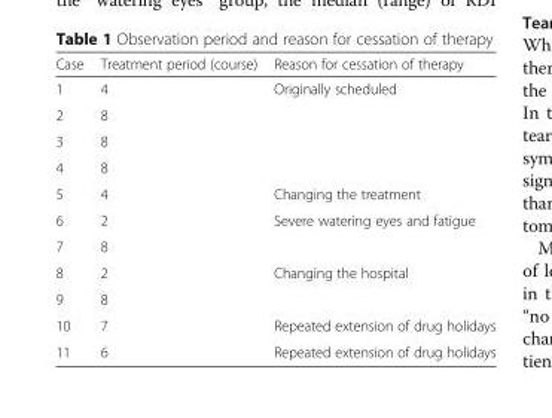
<table><thead><tr><td>Case</td><td>Treatment period (course)</td><td>Reason for cessation of therapy</td></tr></thead><tbody><tr><td>1</td><td>4</td><td>Originally scheduled</td></tr><tr><td>2</td><td>8</td><td></td></tr><tr><td>3</td><td>8</td><td></td></tr><tr><td>4</td><td>8</td><td></td></tr><tr><td>5</td><td>4</td><td>Changing the treatment</td></tr><tr><td>6</td><td>2</td><td>Severe watering eyes and fatigue</td></tr><tr><td>7</td><td>8</td><td></td></tr><tr><td>8</td><td>2</td><td>Changing the hospital</td></tr><tr><td>9</td><td>8</td><td></td></tr><tr><td>10</td><td>7</td><td>Repeated extension of drug holidays</td></tr><tr><td>11</td><td>6</td><td>Repeated extension of drug holidays</td></tr></tbody></table>